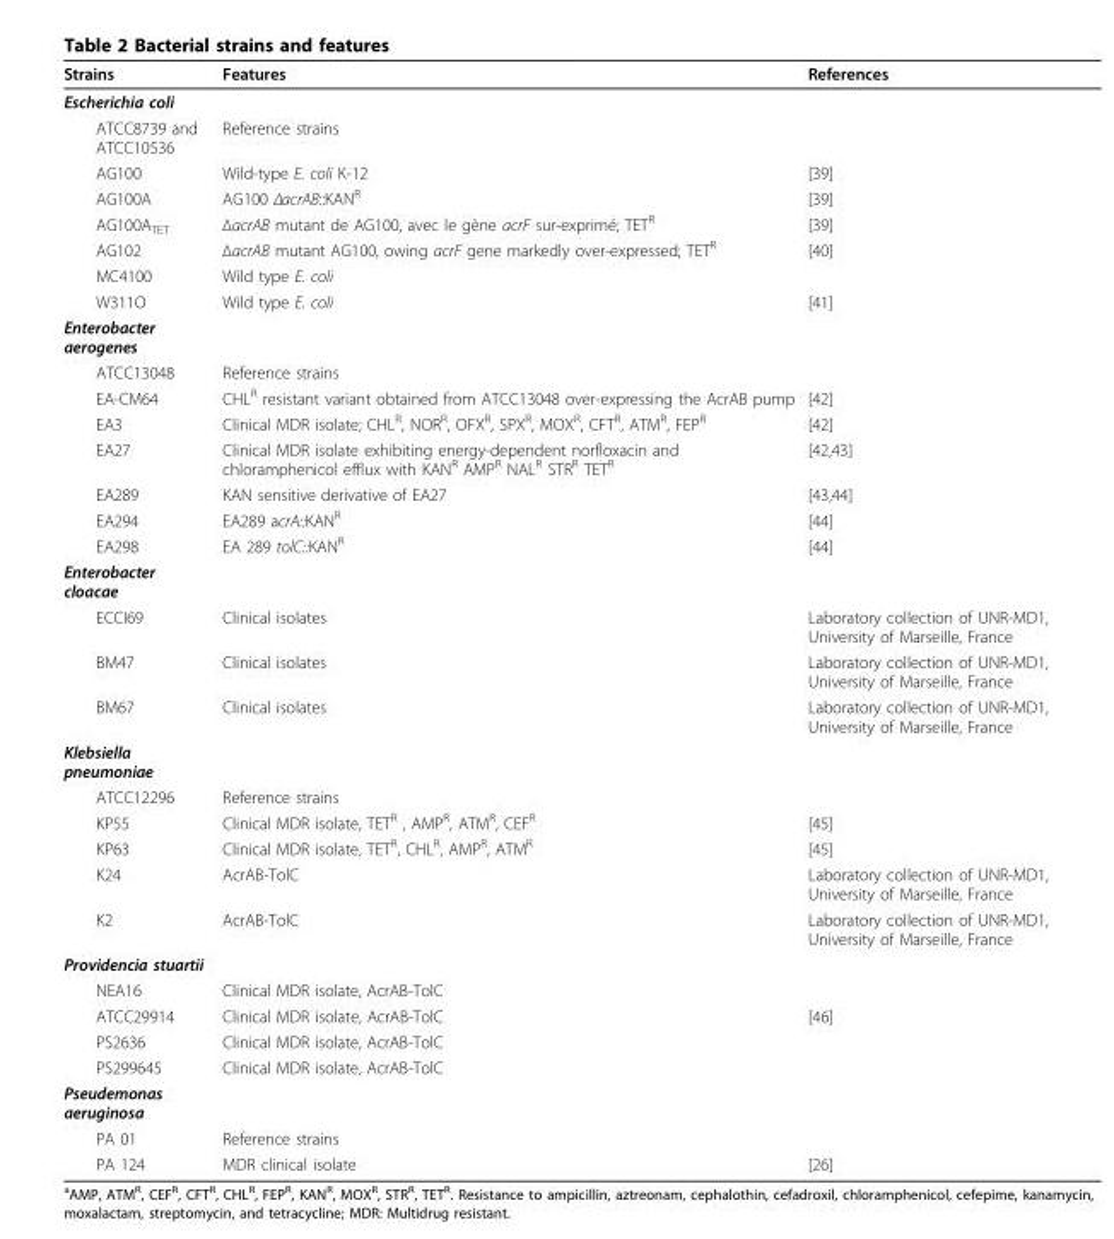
<table><thead><tr><td>Strains</td><td>Features</td><td>References</td></tr></thead><tbody><tr><td colspan="3">Escherichia coli</td></tr><tr><td>ATCC8739 and ATCC10536</td><td>Reference strains</td><td></td></tr><tr><td>AG100</td><td>Wild-type E. coli K-12</td><td>[39]</td></tr><tr><td>AG100A</td><td>AG100 ΔacrAB::KAN<sup>R</sup></td><td>[39]</td></tr><tr><td>AG100A<sub>TET</sub></td><td>ΔacrAB mutant de AG100, avec le gène acrF sur-exprimé; TET<sup>R</sup></td><td>[39]</td></tr><tr><td>AG102</td><td>ΔacrAB mutant AG100, owing acrF gene markedly over-expressed; TET<sup>R</sup></td><td>[40]</td></tr><tr><td>MC4100</td><td>Wild type E. coli</td><td></td></tr><tr><td>W311O</td><td>Wild type E. coli</td><td>[41]</td></tr><tr><td colspan="3">Enterobacter aerogenes</td></tr><tr><td>ATCC13048</td><td>Reference strains</td><td></td></tr><tr><td>EA-CM64</td><td>CHL<sup>R</sup> resistant variant obtained from ATCC13048 over-expressing the AcrAB pump</td><td>[42]</td></tr><tr><td>EA3</td><td>Clinical MDR isolate; CHL<sup>R</sup>, NOR<sup>R</sup>, OFX<sup>R</sup>, SPX<sup>R</sup>, MOX<sup>R</sup>, CFT<sup>R</sup>, ATM<sup>R</sup>, FEP<sup>R</sup></td><td>[42]</td></tr><tr><td>EA27</td><td>Clinical MDR isolate exhibiting energy-dependent norfloxacin and chloramphenicol efflux with KAN<sup>R</sup> AMP<sup>R</sup> NAL<sup>R</sup> STR<sup>R</sup> TET<sup>R</sup></td><td>[42,43]</td></tr><tr><td>EA289</td><td>KAN sensitive derivative of EA27</td><td>[43,44]</td></tr><tr><td>EA294</td><td>EA289 acrA::KAN<sup>R</sup></td><td>[44]</td></tr><tr><td>EA298</td><td>EA 289 tolC::KAN<sup>R</sup></td><td>[44]</td></tr><tr><td colspan="3">Enterobacter cloacae</td></tr><tr><td>ECCI69</td><td>Clinical isolates</td><td>Laboratory collection of UNR-MD1, University of Marseille, France</td></tr><tr><td>BM47</td><td>Clinical isolates</td><td>Laboratory collection of UNR-MD1, University of Marseille, France</td></tr><tr><td>BM67</td><td>Clinical isolates</td><td>Laboratory collection of UNR-MD1, University of Marseille, France</td></tr><tr><td colspan="3">Klebsiella pneumoniae</td></tr><tr><td>ATCC12296</td><td>Reference strains</td><td></td></tr><tr><td>KP55</td><td>Clinical MDR isolate, TET<sup>R</sup> , AMP<sup>R</sup>, ATM<sup>R</sup>, CEF<sup>R</sup></td><td>[45]</td></tr><tr><td>KP63</td><td>Clinical MDR isolate, TET<sup>R</sup>, CHL<sup>R</sup>, AMP<sup>R</sup>, ATM<sup>R</sup></td><td>[45]</td></tr><tr><td>K24</td><td>AcrAB-TolC</td><td>Laboratory collection of UNR-MD1, University of Marseille, France</td></tr><tr><td>K2</td><td>AcrAB-TolC</td><td>Laboratory collection of UNR-MD1, University of Marseille, France</td></tr><tr><td colspan="3">Providencia stuartii</td></tr><tr><td>NEA16</td><td>Clinical MDR isolate, AcrAB-TolC</td><td></td></tr><tr><td>ATCC29914</td><td>Clinical MDR isolate, AcrAB-TolC</td><td>[46]</td></tr><tr><td>PS2636</td><td>Clinical MDR isolate, AcrAB-TolC</td><td></td></tr><tr><td>PS299645</td><td>Clinical MDR isolate, AcrAB-TolC</td><td></td></tr><tr><td colspan="3">Pseudemonas aeruginosa</td></tr><tr><td>PA 01</td><td>Reference strains</td><td></td></tr><tr><td>PA 124</td><td>MDR clinical isolate</td><td>[26]</td></tr></tbody></table>